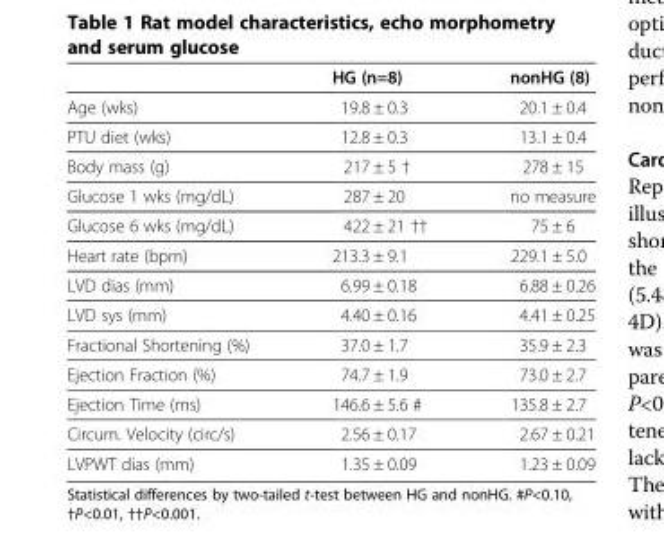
<table><thead><tr><td></td><td>HG (n=8)</td><td>nonHG (8)</td></tr></thead><tbody><tr><td>Age (wks)</td><td>19.8 ± 0.3</td><td>20.1 ± 0.4</td></tr><tr><td>PTU diet (wks)</td><td>12.8 ± 0.3</td><td>13.1 ± 0.4</td></tr><tr><td>Body mass (g)</td><td>217 ± 5 †</td><td>278 ± 15</td></tr><tr><td>Glucose 1 wks (mg/dL)</td><td>287 ± 20</td><td>no measure</td></tr><tr><td>Glucose 6 wks (mg/dL)</td><td>422 ± 21 ††</td><td>75 ± 6</td></tr><tr><td>Heart rate (bpm)</td><td>213.3 ± 9.1</td><td>229.1 ± 5.0</td></tr><tr><td>LVD dias (mm)</td><td>6.99 ± 0.18</td><td>6.88 ± 0.26</td></tr><tr><td>LVD sys (mm)</td><td>4.40 ± 0.16</td><td>4.41 ± 0.25</td></tr><tr><td>Fractional Shortening (%)</td><td>37.0 ± 1.7</td><td>35.9 ± 2.3</td></tr><tr><td>Ejection Fraction (%)</td><td>74.7 ± 1.9</td><td>73.0 ± 2.7</td></tr><tr><td>Ejection Time (ms)</td><td>146.6 ± 5.6 #</td><td>135.8 ± 2.7</td></tr><tr><td>Circum. Velocity (circ/s)</td><td>2.56 ± 0.17</td><td>2.67 ± 0.21</td></tr><tr><td>LVPWT dias (mm)</td><td>1.35 ± 0.09</td><td>1.23 ± 0.09</td></tr></tbody></table>